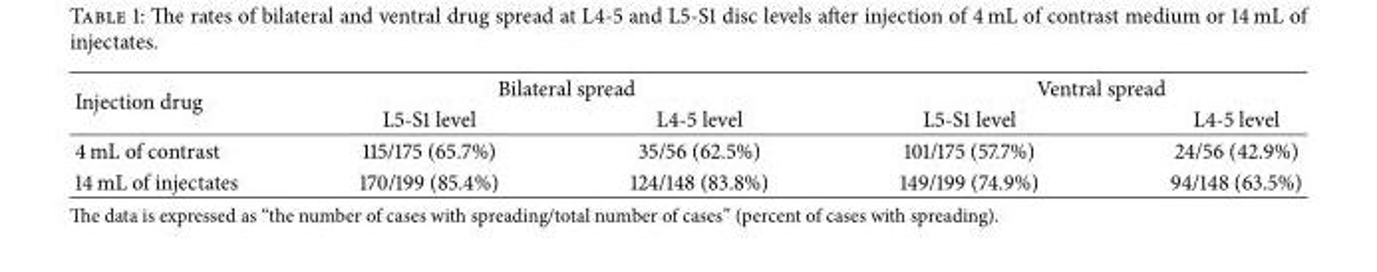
<table><thead><tr><td rowspan="2">Injection drug</td><td colspan="2">Bilateral spread</td><td colspan="2">Ventral spread</td></tr><tr><td>L5-S1 level</td><td>L4-5 level</td><td>L5-S1 level</td><td>L4-5 level</td></tr></thead><tbody><tr><td>4 mL of contrast</td><td>115/175 (65.7%)</td><td>35/56 (62.5%)</td><td>101/175 (57.7%)</td><td>24/56 (42.9%)</td></tr><tr><td>14 mL of injectates</td><td>170/199 (85.4%)</td><td>124/148 (83.8%)</td><td>149/199 (74.9%)</td><td>94/148 (63.5%)</td></tr></tbody></table>